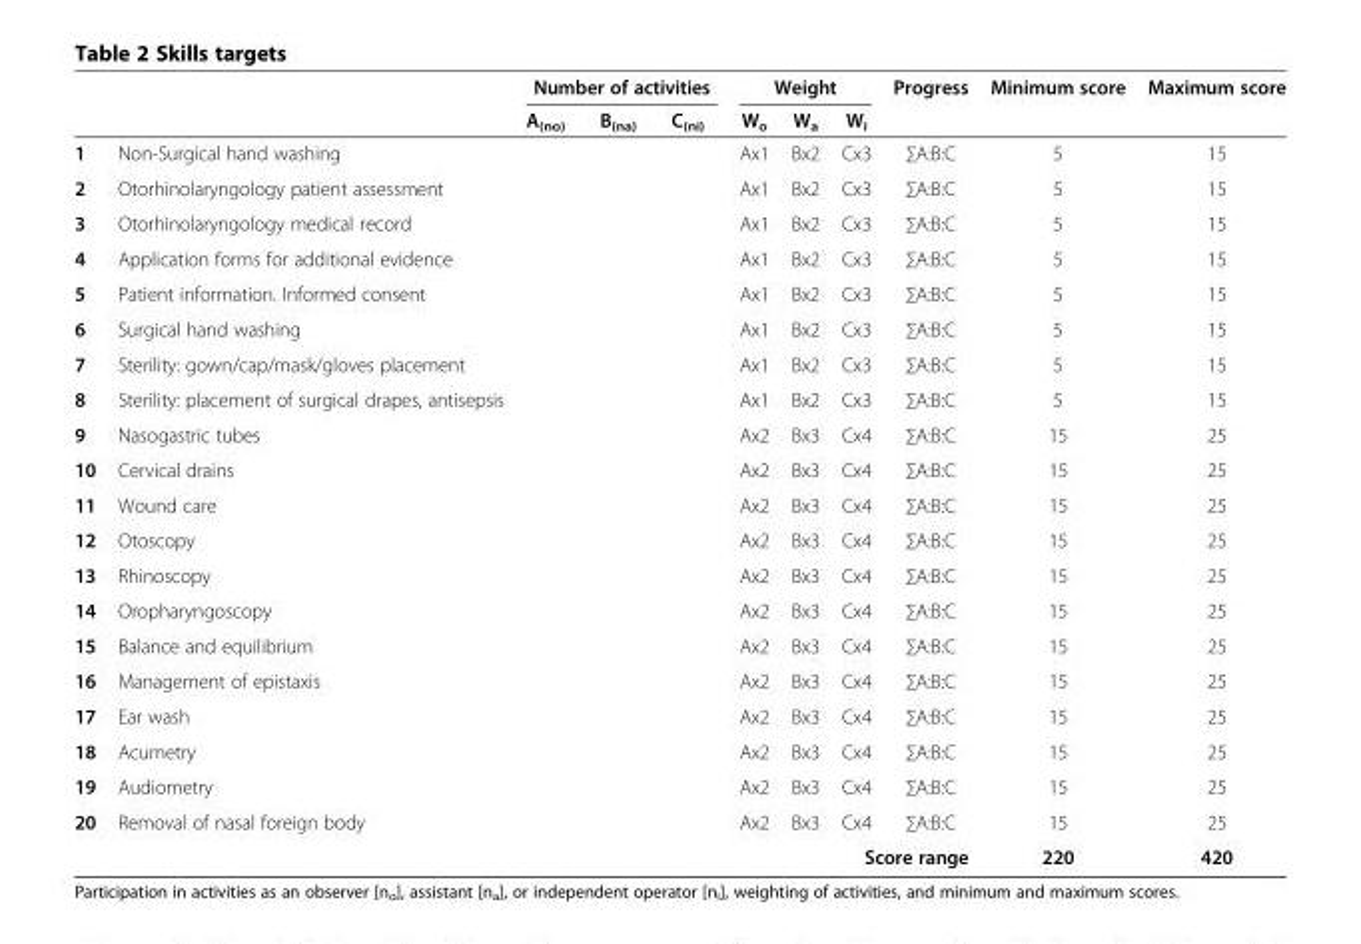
<table><thead><tr><td rowspan="2"></td><td rowspan="2"></td><td colspan="3">Number of activities</td><td colspan="3">Weight</td><td rowspan="2">Progress</td><td rowspan="2">Minimum score</td><td rowspan="2">Maximum score</td></tr><tr><td>A<sub>(no)</sub></td><td>B<sub>(na)</sub></td><td>C<sub>(ni)</sub></td><td>W<sub>o</sub></td><td>W<sub>a</sub></td><td>W<sub>i</sub></td></tr></thead><tbody><tr><td>1</td><td>Non-Surgical hand washing</td><td></td><td></td><td></td><td>Ax1</td><td>Bx2</td><td>Cx3</td><td>∑A:B:C</td><td>5</td><td>15</td></tr><tr><td>2</td><td>Otorhinolaryngology patient assessment</td><td></td><td></td><td></td><td>Ax1</td><td>Bx2</td><td>Cx3</td><td>∑A:B:C</td><td>5</td><td>15</td></tr><tr><td>3</td><td>Otorhinolaryngology medical record</td><td></td><td></td><td></td><td>Ax1</td><td>Bx2</td><td>Cx3</td><td>∑A:B:C</td><td>5</td><td>15</td></tr><tr><td>4</td><td>Application forms for additional evidence</td><td></td><td></td><td></td><td>Ax1</td><td>Bx2</td><td>Cx3</td><td>∑A:B:C</td><td>5</td><td>15</td></tr><tr><td>5</td><td>Patient information. Informed consent</td><td></td><td></td><td></td><td>Ax1</td><td>Bx2</td><td>Cx3</td><td>∑A:B:C</td><td>5</td><td>15</td></tr><tr><td>6</td><td>Surgical hand washing</td><td></td><td></td><td></td><td>Ax1</td><td>Bx2</td><td>Cx3</td><td>∑A:B:C</td><td>5</td><td>15</td></tr><tr><td>7</td><td>Sterility: gown/cap/mask/gloves placement</td><td></td><td></td><td></td><td>Ax1</td><td>Bx2</td><td>Cx3</td><td>∑A:B:C</td><td>5</td><td>15</td></tr><tr><td>8</td><td>Sterility: placement of surgical drapes, antisepsis</td><td></td><td></td><td></td><td>Ax1</td><td>Bx2</td><td>Cx3</td><td>∑A:B:C</td><td>5</td><td>15</td></tr><tr><td>9</td><td>Nasogastric tubes</td><td></td><td></td><td></td><td>Ax2</td><td>Bx3</td><td>Cx4</td><td>∑A:B:C</td><td>15</td><td>25</td></tr><tr><td>10</td><td>Cervical drains</td><td></td><td></td><td></td><td>Ax2</td><td>Bx3</td><td>Cx4</td><td>∑A:B:C</td><td>15</td><td>25</td></tr><tr><td>11</td><td>Wound care</td><td></td><td></td><td></td><td>Ax2</td><td>Bx3</td><td>Cx4</td><td>∑A:B:C</td><td>15</td><td>25</td></tr><tr><td>12</td><td>Otoscopy</td><td></td><td></td><td></td><td>Ax2</td><td>Bx3</td><td>Cx4</td><td>∑A:B:C</td><td>15</td><td>25</td></tr><tr><td>13</td><td>Rhinoscopy</td><td></td><td></td><td></td><td>Ax2</td><td>Bx3</td><td>Cx4</td><td>∑A:B:C</td><td>15</td><td>25</td></tr><tr><td>14</td><td>Oropharyngoscopy</td><td></td><td></td><td></td><td>Ax2</td><td>Bx3</td><td>Cx4</td><td>∑A:B:C</td><td>15</td><td>25</td></tr><tr><td>15</td><td>Balance and equilibrium</td><td></td><td></td><td></td><td>Ax2</td><td>Bx3</td><td>Cx4</td><td>∑A:B:C</td><td>15</td><td>25</td></tr><tr><td>16</td><td>Management of epistaxis</td><td></td><td></td><td></td><td>Ax2</td><td>Bx3</td><td>Cx4</td><td>∑A:B:C</td><td>15</td><td>25</td></tr><tr><td>17</td><td>Ear wash</td><td></td><td></td><td></td><td>Ax2</td><td>Bx3</td><td>Cx4</td><td>∑A:B:C</td><td>15</td><td>25</td></tr><tr><td>18</td><td>Acumetry</td><td></td><td></td><td></td><td>Ax2</td><td>Bx3</td><td>Cx4</td><td>∑A:B:C</td><td>15</td><td>25</td></tr><tr><td>19</td><td>Audiometry</td><td></td><td></td><td></td><td>Ax2</td><td>Bx3</td><td>Cx4</td><td>∑A:B:C</td><td>15</td><td>25</td></tr><tr><td rowspan="2">20</td><td>Removal of nasal foreign body</td><td></td><td></td><td></td><td>Ax2</td><td>Bx3</td><td>Cx4</td><td>∑A:B:C</td><td>15</td><td>25</td></tr><tr><td colspan="8">Score range</td><td>220</td><td>420</td></tr></tbody></table>